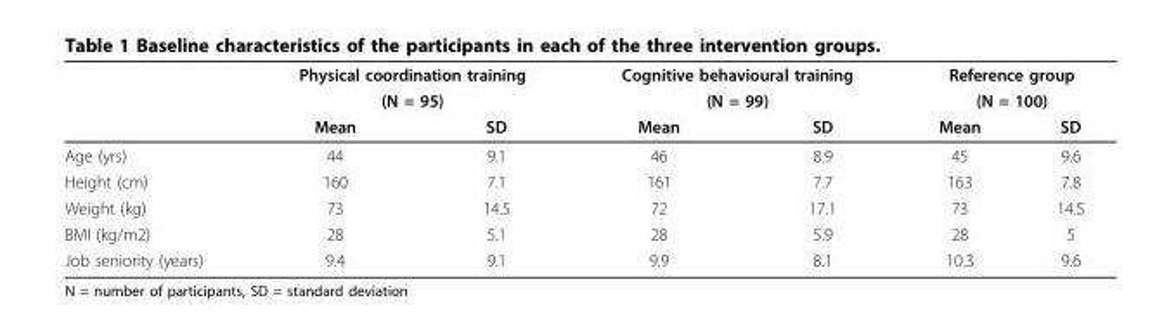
<table><thead><tr><td rowspan="3"></td><td rowspan="2" colspan="2">Physical coordination training (N = 95)</td><td rowspan="2" colspan="2">Cognitive behavioural training (N = 99)</td><td rowspan="2" colspan="2">Reference group (N = 100)</td></tr><tr></tr><tr><td>Mean</td><td>SD</td><td>Mean</td><td>SD</td><td>Mean</td><td>SD</td></tr></thead><tbody><tr><td>Age (yrs)</td><td>44</td><td>9.1</td><td>46</td><td>8.9</td><td>45</td><td>9.6</td></tr><tr><td>Height (cm)</td><td>160</td><td>7.1</td><td>161</td><td>7.7</td><td>163</td><td>7.8</td></tr><tr><td>Weight (kg)</td><td>73</td><td>14.5</td><td>72</td><td>17.1</td><td>73</td><td>14.5</td></tr><tr><td>BMI (kg/m2)</td><td>28</td><td>5.1</td><td>28</td><td>5.9</td><td>28</td><td>5</td></tr><tr><td>Job seniority (years)</td><td>9.4</td><td>9.1</td><td>9.9</td><td>8.1</td><td>10.3</td><td>9.6</td></tr></tbody></table>